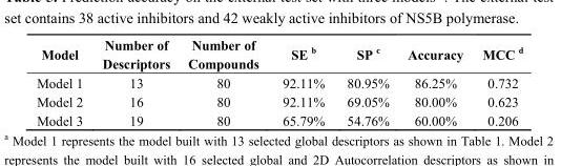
<table><thead><tr><td>Model</td><td>Number of Descriptors</td><td>Number of Compounds</td><td>SE b</td><td>SP c</td><td>Accuracy</td><td>MCC d</td></tr></thead><tbody><tr><td>Model 1</td><td>13</td><td>80</td><td>92.11%</td><td>80.95%</td><td>86.25%</td><td>0.732</td></tr><tr><td>Model 2</td><td>16</td><td>80</td><td>92.11%</td><td>69.05%</td><td>80.00%</td><td>0.623</td></tr><tr><td>Model 3</td><td>19</td><td>80</td><td>65.79%</td><td>54.76%</td><td>60.00%</td><td>0.206</td></tr></tbody></table>